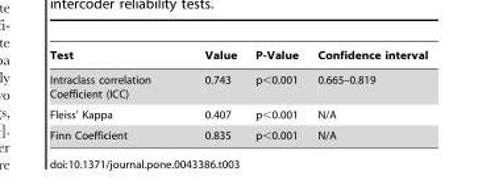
<table><thead><tr><td>Test</td><td>Value</td><td>P-Value</td><td>Confidence interval</td></tr></thead><tbody><tr><td>Intraclass correlation Coefficient (ICC)</td><td>0.743</td><td>p&lt;0.001</td><td>0.665–0.819</td></tr><tr><td>Fleiss’ Kappa</td><td>0.407</td><td>p&lt;0.001</td><td>N/A</td></tr><tr><td>Finn Coefficient</td><td>0.835</td><td>p&lt;0.001</td><td>N/A</td></tr></tbody></table>